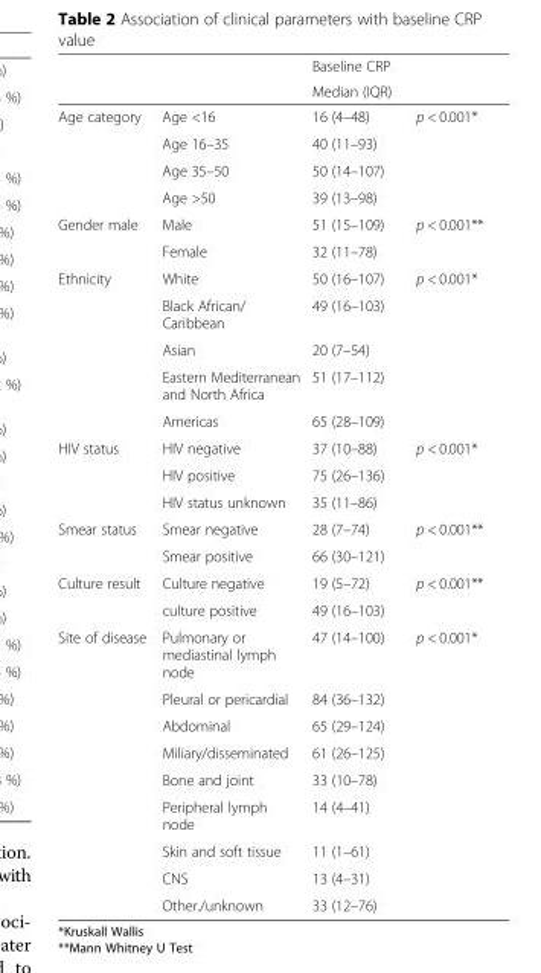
<table><thead><tr><td rowspan="2"></td><td rowspan="2"></td><td rowspan="2">Baseline CRP Median (IQR)</td><td rowspan="2"></td></tr><tr></tr></thead><tbody><tr><td rowspan="4">Age category</td><td>Age &lt;16</td><td>16 (4–48)</td><td rowspan="4">p &lt; 0.001*</td></tr><tr><td>Age 16–35</td><td>40 (11–93)</td></tr><tr><td>Age 35–50</td><td>50 (14–107)</td></tr><tr><td>Age &gt;50</td><td>39 (13–98)</td></tr><tr><td rowspan="2">Gender male</td><td>Male</td><td>51 (15–109)</td><td rowspan="2">p &lt; 0.001**</td></tr><tr><td>Female</td><td>32 (11–78)</td></tr><tr><td rowspan="5">Ethnicity</td><td>White</td><td>50 (16–107)</td><td rowspan="5">p &lt; 0.001*</td></tr><tr><td>Black African/ Caribbean</td><td>49 (16–103)</td></tr><tr><td>Asian</td><td>20 (7–54)</td></tr><tr><td>Eastern Mediterranean and North Africa</td><td>51 (17–112)</td></tr><tr><td>Americas</td><td>65 (28–109)</td></tr><tr><td rowspan="3">HIV status</td><td>HIV negative</td><td>37 (10–88)</td><td rowspan="3">p &lt; 0.001*</td></tr><tr><td>HIV positive</td><td>75 (26–136)</td></tr><tr><td>HIV status unknown</td><td>35 (11–86)</td></tr><tr><td rowspan="2">Smear status</td><td>Smear negative</td><td>28 (7–74)</td><td rowspan="2">p &lt; 0.001**</td></tr><tr><td>Smear positive</td><td>66 (30–121)</td></tr><tr><td rowspan="2">Culture result</td><td>Culture negative</td><td>19 (5–72)</td><td rowspan="2">p &lt; 0.001**</td></tr><tr><td>culture positive</td><td>49 (16–103)</td></tr><tr><td rowspan="9">Site of disease</td><td>Pulmonary or mediastinal lymph node</td><td>47 (14–100)</td><td rowspan="9">p &lt; 0.001*</td></tr><tr><td>Pleural or pericardial</td><td>84 (36–132)</td></tr><tr><td>Abdominal</td><td>65 (29–124)</td></tr><tr><td>Miliary/disseminated</td><td>61 (26–125)</td></tr><tr><td>Bone and joint</td><td>33 (10–78)</td></tr><tr><td>Peripheral lymph node</td><td>14 (4–41)</td></tr><tr><td>Skin and soft tissue</td><td>11 (1–61)</td></tr><tr><td>CNS</td><td>13 (4–31)</td></tr><tr><td>Other./unknown</td><td>33 (12–76)</td></tr></tbody></table>